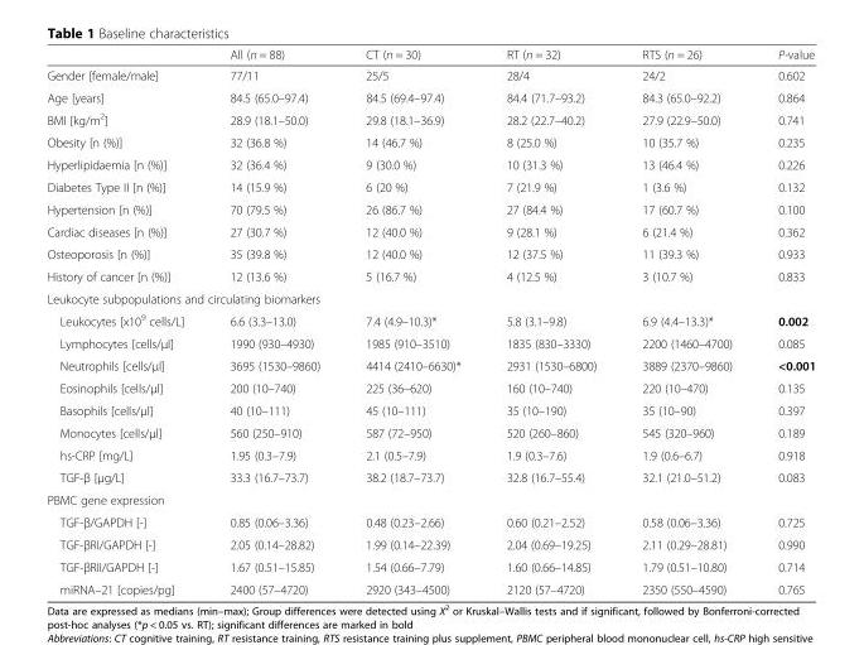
<table><thead><tr><td></td><td>All (n = 88)</td><td>CT (n = 30)</td><td>RT (n = 32)</td><td>RTS (n = 26)</td><td>P-value</td></tr></thead><tbody><tr><td>Gender [female/male]</td><td>77/11</td><td>25/5</td><td>28/4</td><td>24/2</td><td>0.602</td></tr><tr><td>Age [years]</td><td>84.5 (65.0–97.4)</td><td>84.5 (69.4–97.4)</td><td>84.4 (71.7–93.2)</td><td>84.3 (65.0–92.2)</td><td>0.864</td></tr><tr><td>BMI [kg/m<sup>2</sup>]</td><td>28.9 (18.1–50.0)</td><td>29.8 (18.1–36.9)</td><td>28.2 (22.7–40.2)</td><td>27.9 (22.9–50.0)</td><td>0.741</td></tr><tr><td>Obesity [n (%)]</td><td>32 (36.8 %)</td><td>14 (46.7 %)</td><td>8 (25.0 %)</td><td>10 (35.7 %)</td><td>0.235</td></tr><tr><td>Hyperlipidaemia [n (%)]</td><td>32 (36.4 %)</td><td>9 (30.0 %)</td><td>10 (31.3 %)</td><td>13 (46.4 %)</td><td>0.226</td></tr><tr><td>Diabetes Type II [n (%)]</td><td>14 (15.9 %)</td><td>6 (20 %)</td><td>7 (21.9 %)</td><td>1 (3.6 %)</td><td>0.132</td></tr><tr><td>Hypertension [n (%)]</td><td>70 (79.5 %)</td><td>26 (86.7 %)</td><td>27 (84.4 %)</td><td>17 (60.7 %)</td><td>0.100</td></tr><tr><td>Cardiac diseases [n (%)]</td><td>27 (30.7 %)</td><td>12 (40.0 %)</td><td>9 (28.1 %)</td><td>6 (21.4 %)</td><td>0.362</td></tr><tr><td>Osteoporosis [n (%)]</td><td>35 (39.8 %)</td><td>12 (40.0 %)</td><td>12 (37.5 %)</td><td>11 (39.3 %)</td><td>0.933</td></tr><tr><td>History of cancer [n (%)]</td><td>12 (13.6 %)</td><td>5 (16.7 %)</td><td>4 (12.5 %)</td><td>3 (10.7 %)</td><td>0.833</td></tr><tr><td colspan="6">Leukocyte subpopulations and circulating biomarkers</td></tr><tr><td>Leukocytes [x10<sup>9</sup> cells/L]</td><td>6.6 (3.3–13.0)</td><td>7.4 (4.9–10.3)*</td><td>5.8 (3.1–9.8)</td><td>6.9 (4.4–13.3)*</td><td>0.002</td></tr><tr><td>Lymphocytes [cells/μl]</td><td>1990 (930–4930)</td><td>1985 (910–3510)</td><td>1835 (830–3330)</td><td>2200 (1460–4700)</td><td>0.085</td></tr><tr><td>Neutrophils [cells/μl]</td><td>3695 (1530–9860)</td><td>4414 (2410–6630)*</td><td>2931 (1530–6800)</td><td>3889 (2370–9860)</td><td>&lt;0.001</td></tr><tr><td>Eosinophils [cells/μl]</td><td>200 (10–740)</td><td>225 (36–620)</td><td>160 (10–740)</td><td>220 (10–470)</td><td>0.135</td></tr><tr><td>Basophils [cells/μl]</td><td>40 (10–111)</td><td>45 (10–111)</td><td>35 (10–190)</td><td>35 (10–90)</td><td>0.397</td></tr><tr><td>Monocytes [cells/μl]</td><td>560 (250–910)</td><td>587 (72–950)</td><td>520 (260–860)</td><td>545 (320–960)</td><td>0.189</td></tr><tr><td>hs-CRP [mg/L]</td><td>1.95 (0.3–7.9)</td><td>2.1 (0.5–7.9)</td><td>1.9 (0.3–7.6)</td><td>1.9 (0.6–6.7)</td><td>0.918</td></tr><tr><td>TGF-β [μg/L]</td><td>33.3 (16.7–73.7)</td><td>38.2 (18.7–73.7)</td><td>32.8 (16.7–55.4)</td><td>32.1 (21.0–51.2)</td><td>0.083</td></tr><tr><td colspan="6">PBMC gene expression</td></tr><tr><td>TGF-β/GAPDH [-]</td><td>0.85 (0.06–3.36)</td><td>0.48 (0.23–2.66)</td><td>0.60 (0.21–2.52)</td><td>0.58 (0.06–3.36)</td><td>0.725</td></tr><tr><td>TGF-βRI/GAPDH [-]</td><td>2.05 (0.14–28.82)</td><td>1.99 (0.14–22.39)</td><td>2.04 (0.69–19.25)</td><td>2.11 (0.29–28.81)</td><td>0.990</td></tr><tr><td>TGF-βRII/GAPDH [-]</td><td>1.67 (0.51–15.85)</td><td>1.54 (0.66–7.79)</td><td>1.60 (0.66–14.85)</td><td>1.79 (0.51–10.80)</td><td>0.714</td></tr><tr><td>miRNA–21 [copies/pg]</td><td>2400 (57–4720)</td><td>2920 (343–4500)</td><td>2120 (57–4720)</td><td>2350 (550–4590)</td><td>0.765</td></tr></tbody></table>